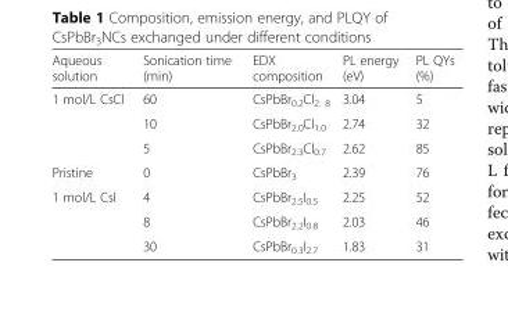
<table><thead><tr><td>Aqueous solution</td><td>Sonication time (min)</td><td>EDX composition</td><td>PL energy (eV)</td><td>PL QYs (%)</td></tr></thead><tbody><tr><td rowspan="3">1 mol/L CsCl</td><td>60</td><td>CsPbBr<sub>0.2</sub>Cl<sub>2. 8</sub></td><td>3.04</td><td>5</td></tr><tr><td>10</td><td>CsPbBr<sub>2.0</sub>Cl<sub>1.0</sub></td><td>2.74</td><td>32</td></tr><tr><td>5</td><td>CsPbBr<sub>2.3</sub>Cl<sub>0.7</sub></td><td>2.62</td><td>85</td></tr><tr><td>Pristine</td><td>0</td><td>CsPbBr<sub>3</sub></td><td>2.39</td><td>76</td></tr><tr><td rowspan="3">1 mol/L CsI</td><td>4</td><td>CsPbBr<sub>2.5</sub>I<sub>0.5</sub></td><td>2.25</td><td>52</td></tr><tr><td>8</td><td>CsPbBr<sub>2.2</sub>I<sub>0.8</sub></td><td>2.03</td><td>46</td></tr><tr><td>30</td><td>CsPbBr<sub>0.3</sub>I<sub>2.7</sub></td><td>1.83</td><td>31</td></tr></tbody></table>